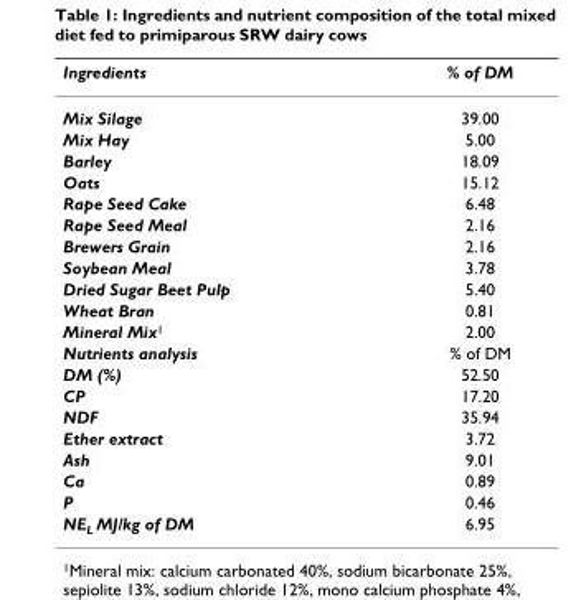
<table><thead><tr><td>Ingredients</td><td>% of DM</td></tr></thead><tbody><tr><td>Mix Silage</td><td>39.00</td></tr><tr><td>Mix Hay</td><td>5.00</td></tr><tr><td>Barley</td><td>18.09</td></tr><tr><td>Oats</td><td>15.12</td></tr><tr><td>Rape Seed Cake</td><td>6.48</td></tr><tr><td>Rape Seed Meal</td><td>2.16</td></tr><tr><td>Brewers Grain</td><td>2.16</td></tr><tr><td>Soybean Meal</td><td>3.78</td></tr><tr><td>Dried Sugar Beet Pulp</td><td>5.40</td></tr><tr><td>Wheat Bran</td><td>0.81</td></tr><tr><td>Mineral Mix<sup>1</sup></td><td>2.00</td></tr><tr><td>Nutrients analysis</td><td>% of DM</td></tr><tr><td>DM (%)</td><td>52.50</td></tr><tr><td>CP</td><td>17.20</td></tr><tr><td>NDF</td><td>35.94</td></tr><tr><td>Ether extract</td><td>3.72</td></tr><tr><td>Ash</td><td>9.01</td></tr><tr><td>Ca</td><td>0.89</td></tr><tr><td>P</td><td>0.46</td></tr><tr><td>NE<sub>L</sub> MJ/kg of DM</td><td>6.95</td></tr></tbody></table>